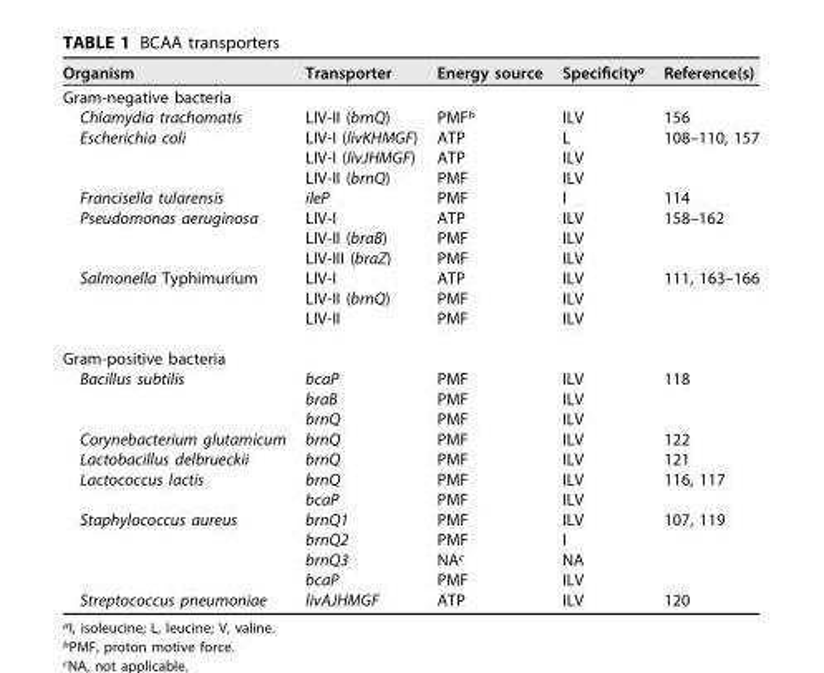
<table><thead><tr><td>Organism</td><td>Transporter</td><td>Energy source</td><td>Specificity<sup>a</sup></td><td>Reference(s)</td></tr></thead><tbody><tr><td colspan="5">Gram-negative bacteria</td></tr><tr><td>Chlamydia trachomatis</td><td>LIV-II (brnQ)</td><td>PMF<sup>b</sup></td><td>ILV</td><td>156</td></tr><tr><td rowspan="3">Escherichia coli</td><td>LIV-I (livKHMGF)</td><td>ATP</td><td>L</td><td>108–110, 157</td></tr><tr><td>LIV-I (livJHMGF)</td><td>ATP</td><td>ILV</td><td></td></tr><tr><td>LIV-II (brnQ)</td><td>PMF</td><td>ILV</td><td></td></tr><tr><td>Francisella tularensis</td><td>ileP</td><td>PMF</td><td>I</td><td>114</td></tr><tr><td rowspan="3">Pseudomonas aeruginosa</td><td>LIV-I</td><td>ATP</td><td>ILV</td><td>158–162</td></tr><tr><td>LIV-II (braB)</td><td>PMF</td><td>ILV</td><td></td></tr><tr><td>LIV-III (braZ)</td><td>PMF</td><td>ILV</td><td></td></tr><tr><td rowspan="3">Salmonella Typhimurium</td><td>LIV-I</td><td>ATP</td><td>ILV</td><td>111, 163–166</td></tr><tr><td>LIV-II (brnQ)</td><td>PMF</td><td>ILV</td><td></td></tr><tr><td>LIV-II</td><td>PMF</td><td>ILV</td><td></td></tr><tr><td colspan="5">Gram-positive bacteria</td></tr><tr><td rowspan="3">Bacillus subtilis</td><td>bcaP</td><td>PMF</td><td>ILV</td><td>118</td></tr><tr><td>braB</td><td>PMF</td><td>ILV</td><td></td></tr><tr><td>brnQ</td><td>PMF</td><td>ILV</td><td></td></tr><tr><td>Corynebacterium glutamicum</td><td>brnQ</td><td>PMF</td><td>ILV</td><td>122</td></tr><tr><td>Lactobacillus delbrueckii</td><td>brnQ</td><td>PMF</td><td>ILV</td><td>121</td></tr><tr><td rowspan="2">Lactococcus lactis</td><td>brnQ</td><td>PMF</td><td>ILV</td><td>116, 117</td></tr><tr><td>bcaP</td><td>PMF</td><td>ILV</td><td></td></tr><tr><td rowspan="4">Staphylococcus aureus</td><td>brnQ1</td><td>PMF</td><td>ILV</td><td>107, 119</td></tr><tr><td>brnQ2</td><td>PMF</td><td>I</td><td></td></tr><tr><td>brnQ3</td><td>NA<sup>c</sup></td><td>NA</td><td></td></tr><tr><td>bcaP</td><td>PMF</td><td>ILV</td><td></td></tr><tr><td>Streptococcus pneumoniae</td><td>livAJHMGF</td><td>ATP</td><td>ILV</td><td>120</td></tr></tbody></table>